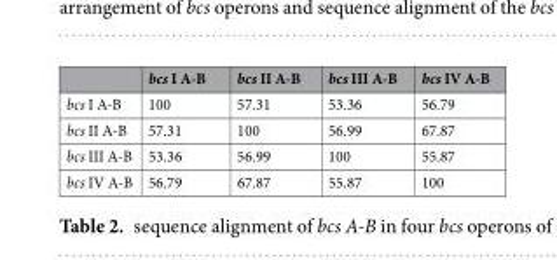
<table><thead><tr><td></td><td>bcs I A-B</td><td>bcs II A-B</td><td>bcs III A-B</td><td>bcs IV A-B</td></tr></thead><tbody><tr><td>bcs I A-B</td><td>100</td><td>57.31</td><td>53.36</td><td>56.79</td></tr><tr><td>bcs II A-B</td><td>57.31</td><td>100</td><td>56.99</td><td>67.87</td></tr><tr><td>bcs III A-B</td><td>53.36</td><td>56.99</td><td>100</td><td>55.87</td></tr><tr><td>bcs IV A-B</td><td>56.79</td><td>67.87</td><td>55.87</td><td>100</td></tr></tbody></table>